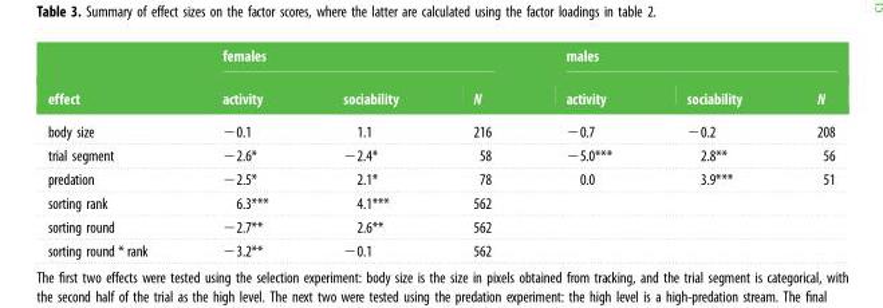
<table><thead><tr><td rowspan="2">effect</td><td colspan="3">females</td><td colspan="3">males</td></tr><tr><td>activity</td><td>sociability</td><td>N</td><td>activity</td><td>sociability</td><td>N</td></tr></thead><tbody><tr><td>body size</td><td>−0.1</td><td>1.1</td><td>216</td><td>−0.7</td><td>−0.2</td><td>208</td></tr><tr><td>trial segment</td><td>−2.6*</td><td>−2.4*</td><td>58</td><td>−5.0***</td><td>2.8**</td><td>56</td></tr><tr><td>predation</td><td>−2.5*</td><td>2.1*</td><td>78</td><td>0.0</td><td>3.9***</td><td>51</td></tr><tr><td>sorting rank</td><td>6.3***</td><td>4.1***</td><td>562</td><td></td><td></td><td></td></tr><tr><td>sorting round</td><td>−2.7**</td><td>2.6**</td><td>562</td><td></td><td></td><td></td></tr><tr><td>sorting round * rank</td><td>−3.2**</td><td>−0.1</td><td>562</td><td></td><td></td><td></td></tr></tbody></table>